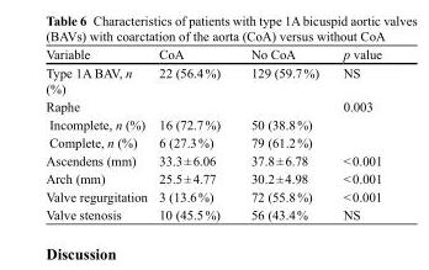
<table><thead><tr><td>Variable</td><td>CoA</td><td>No CoA</td><td>p value</td></tr></thead><tbody><tr><td>Type 1A BAV, n (%)</td><td>22 (56.4 %)</td><td>129 (59.7 %)</td><td>NS</td></tr><tr><td>Raphe</td><td></td><td></td><td>0.003</td></tr><tr><td>Incomplete, n (%)</td><td>16 (72.7 %)</td><td>50 (38.8 %)</td><td></td></tr><tr><td>Complete, n (%)</td><td>6 (27.3 %)</td><td>79 (61.2 %)</td><td></td></tr><tr><td>Ascendens (mm)</td><td>33.3 ± 6.06</td><td>37.8 ± 6.78</td><td>&lt; 0.001</td></tr><tr><td>Arch (mm)</td><td>25.5 ± 4.77</td><td>30.2 ± 4.98</td><td>&lt; 0.001</td></tr><tr><td>Valve regurgitation</td><td>3 (13.6 %)</td><td>72 (55.8 %)</td><td>&lt; 0.001</td></tr><tr><td>Valve stenosis</td><td>10 (45.5 %)</td><td>56 (43.4 %</td><td>NS</td></tr></tbody></table>